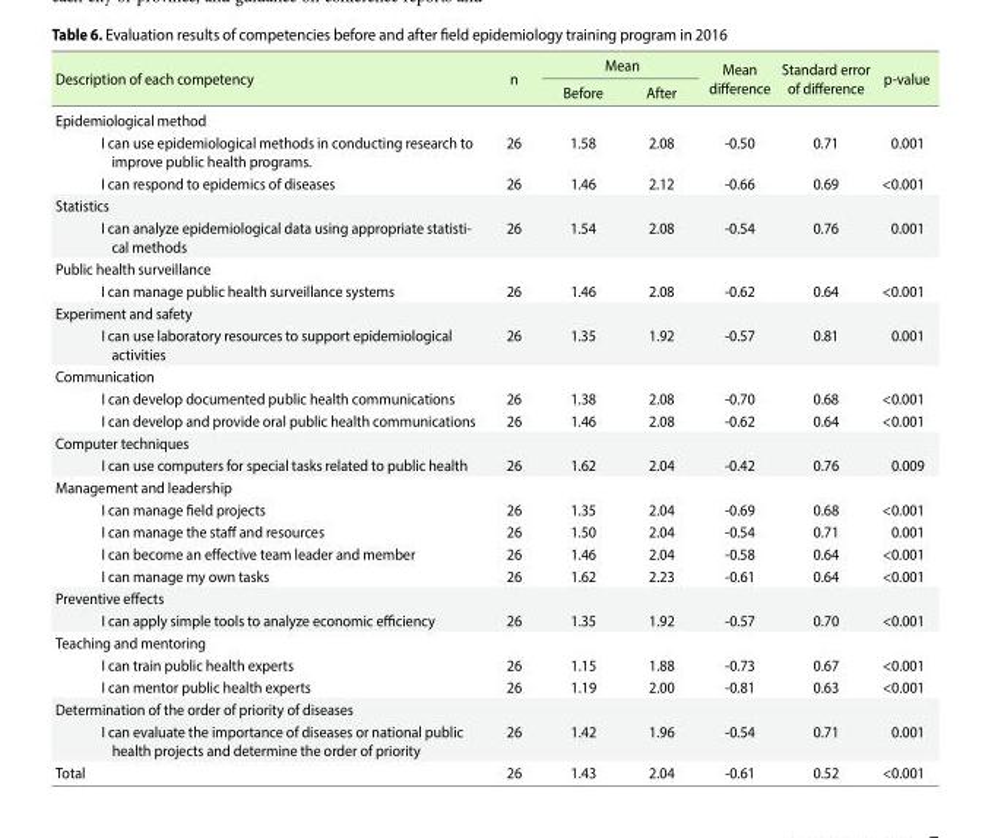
<table><thead><tr><td rowspan="3" colspan="2">Description of each competency Epidemiological method</td><td rowspan="4">n 26</td><td colspan="2">Mean</td><td rowspan="4">Mean difference -0.50</td><td rowspan="4">Standard error of difference 0.71</td><td rowspan="4">p-value 0.001</td></tr><tr><td rowspan="3">Before 1.58</td><td rowspan="3">After 2.08</td></tr><tr></tr><tr><td></td><td>I can use epidemiological methods in conducting research to improve public health programs.</td></tr></thead><tbody><tr><td></td><td>I can respond to epidemics of diseases</td><td>26</td><td>1.46</td><td>2.12</td><td>-0.66</td><td>0.69</td><td>&lt;0.001</td></tr><tr><td colspan="8">Statistics</td></tr><tr><td></td><td>I can analyze epidemiological data using appropriate statisti- cal methods</td><td>26</td><td>1.54</td><td>2.08</td><td>-0.54</td><td>0.76</td><td>0.001</td></tr><tr><td colspan="8">Public health surveillance</td></tr><tr><td></td><td>I can manage public health surveillance systems</td><td>26</td><td>1.46</td><td>2.08</td><td>-0.62</td><td>0.64</td><td>&lt;0.001</td></tr><tr><td colspan="8">Experiment and safety</td></tr><tr><td></td><td>I can use laboratory resources to support epidemiological activities</td><td>26</td><td>1.35</td><td>1.92</td><td>-0.57</td><td>0.81</td><td>0.001</td></tr><tr><td colspan="8">Communication</td></tr><tr><td></td><td>I can develop documented public health communications</td><td>26</td><td>1.38</td><td>2.08</td><td>-0.70</td><td>0.68</td><td>&lt;0.001</td></tr><tr><td></td><td>I can develop and provide oral public health communications</td><td>26</td><td>1.46</td><td>2.08</td><td>-0.62</td><td>0.64</td><td>&lt;0.001</td></tr><tr><td colspan="8">Computer techniques</td></tr><tr><td></td><td>I can use computers for special tasks related to public health</td><td>26</td><td>1.62</td><td>2.04</td><td>-0.42</td><td>0.76</td><td>0.009</td></tr><tr><td colspan="8">Management and leadership</td></tr><tr><td></td><td>I can manage field projects</td><td>26</td><td>1.35</td><td>2.04</td><td>-0.69</td><td>0.68</td><td>&lt;0.001</td></tr><tr><td></td><td>I can manage the staff and resources</td><td>26</td><td>1.50</td><td>2.04</td><td>-0.54</td><td>0.71</td><td>0.001</td></tr><tr><td></td><td>I can become an effective team leader and member</td><td>26</td><td>1.46</td><td>2.04</td><td>-0.58</td><td>0.64</td><td>&lt;0.001</td></tr><tr><td></td><td>I can manage my own tasks</td><td>26</td><td>1.62</td><td>2.23</td><td>-0.61</td><td>0.64</td><td>&lt;0.001</td></tr><tr><td colspan="8">Preventive effects</td></tr><tr><td></td><td>I can apply simple tools to analyze economic efficiency</td><td>26</td><td>1.35</td><td>1.92</td><td>-0.57</td><td>0.70</td><td>&lt;0.001</td></tr><tr><td colspan="8">Teaching and mentoring</td></tr><tr><td></td><td>I can train public health experts</td><td>26</td><td>1.15</td><td>1.88</td><td>-0.73</td><td>0.67</td><td>&lt;0.001</td></tr><tr><td></td><td>I can mentor public health experts</td><td>26</td><td>1.19</td><td>2.00</td><td>-0.81</td><td>0.63</td><td>&lt;0.001</td></tr><tr><td colspan="8">Determination of the order of priority of diseases</td></tr><tr><td></td><td>I can evaluate the importance of diseases or national public health projects and determine the order of priority</td><td>26</td><td>1.42</td><td>1.96</td><td>-0.54</td><td>0.71</td><td>0.001</td></tr><tr><td>Total</td><td></td><td>26</td><td>1.43</td><td>2.04</td><td>-0.61</td><td>0.52</td><td>&lt;0.001</td></tr></tbody></table>